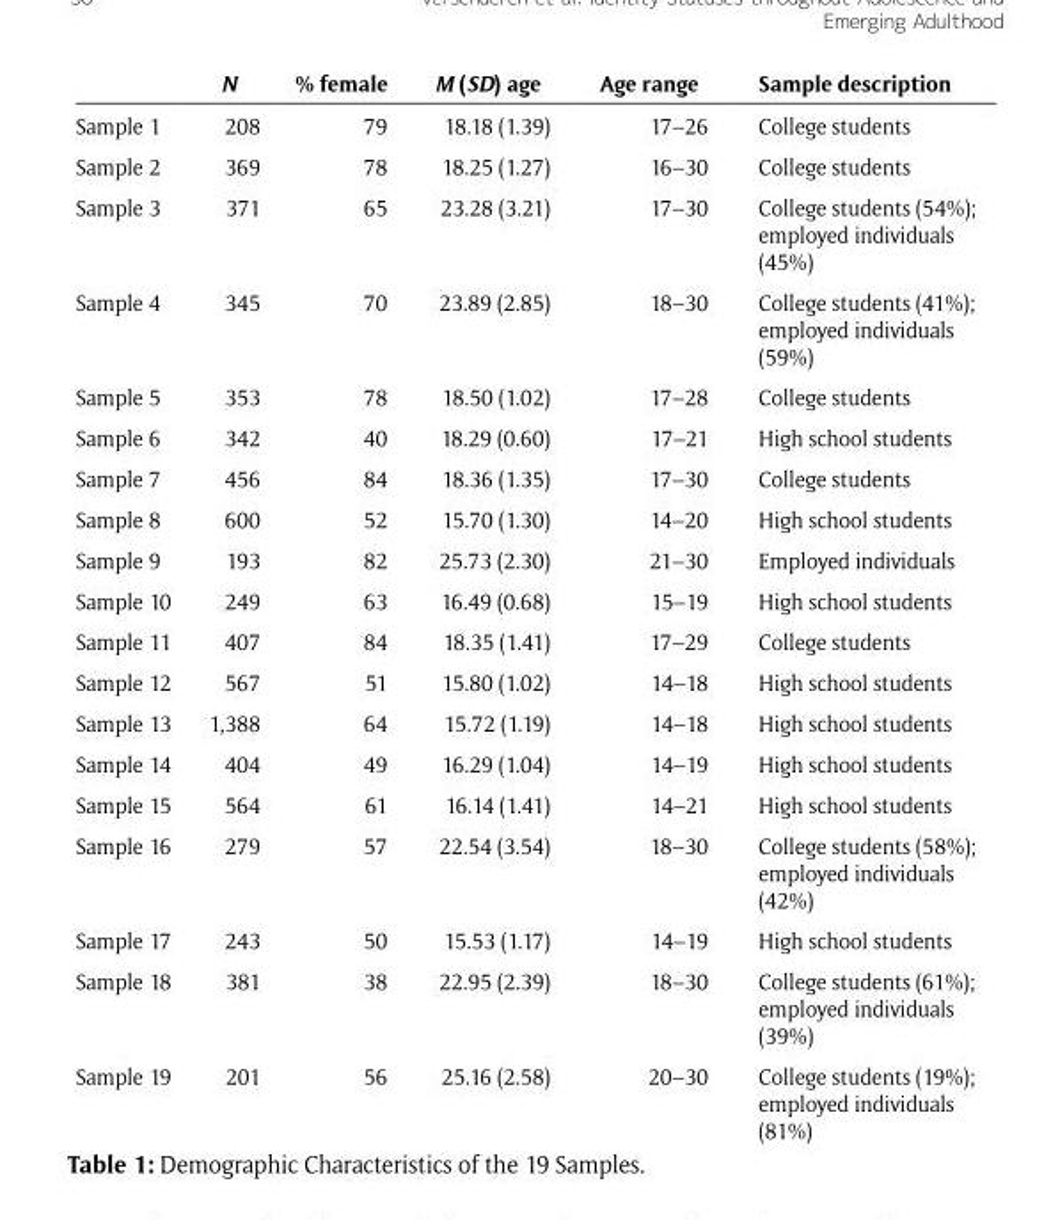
<table><thead><tr><td></td><td>N</td><td>% female</td><td>M (SD) age</td><td>Age range</td><td>Sample description</td></tr></thead><tbody><tr><td>Sample 1</td><td>208</td><td>79</td><td>18.18 (1.39)</td><td>17–26</td><td>College students</td></tr><tr><td>Sample 2</td><td>369</td><td>78</td><td>18.25 (1.27)</td><td>16–30</td><td>College students</td></tr><tr><td>Sample 3</td><td>371</td><td>65</td><td>23.28 (3.21)</td><td>17–30</td><td>College students (54%); employed individuals (45%)</td></tr><tr><td>Sample 4</td><td>345</td><td>70</td><td>23.89 (2.85)</td><td>18–30</td><td>College students (41%); employed individuals (59%)</td></tr><tr><td>Sample 5</td><td>353</td><td>78</td><td>18.50 (1.02)</td><td>17–28</td><td>College students</td></tr><tr><td>Sample 6</td><td>342</td><td>40</td><td>18.29 (0.60)</td><td>17–21</td><td>High school students</td></tr><tr><td>Sample 7</td><td>456</td><td>84</td><td>18.36 (1.35)</td><td>17–30</td><td>College students</td></tr><tr><td>Sample 8</td><td>600</td><td>52</td><td>15.70 (1.30)</td><td>14–20</td><td>High school students</td></tr><tr><td>Sample 9</td><td>193</td><td>82</td><td>25.73 (2.30)</td><td>21–30</td><td>Employed individuals</td></tr><tr><td>Sample 10</td><td>249</td><td>63</td><td>16.49 (0.68)</td><td>15–19</td><td>High school students</td></tr><tr><td>Sample 11</td><td>407</td><td>84</td><td>18.35 (1.41)</td><td>17–29</td><td>College students</td></tr><tr><td>Sample 12</td><td>567</td><td>51</td><td>15.80 (1.02)</td><td>14–18</td><td>High school students</td></tr><tr><td>Sample 13</td><td>1,388</td><td>64</td><td>15.72 (1.19)</td><td>14–18</td><td>High school students</td></tr><tr><td>Sample 14</td><td>404</td><td>49</td><td>16.29 (1.04)</td><td>14–19</td><td>High school students</td></tr><tr><td>Sample 15</td><td>564</td><td>61</td><td>16.14 (1.41)</td><td>14–21</td><td>High school students</td></tr><tr><td>Sample 16</td><td>279</td><td>57</td><td>22.54 (3.54)</td><td>18–30</td><td>College students (58%); employed individuals (42%)</td></tr><tr><td>Sample 17</td><td>243</td><td>50</td><td>15.53 (1.17)</td><td>14–19</td><td>High school students</td></tr><tr><td>Sample 18</td><td>381</td><td>38</td><td>22.95 (2.39)</td><td>18–30</td><td>College students (61%); employed individuals (39%)</td></tr><tr><td>Sample 19</td><td>201</td><td>56</td><td>25.16 (2.58)</td><td>20–30</td><td>College students (19%); employed individuals (81%)</td></tr></tbody></table>